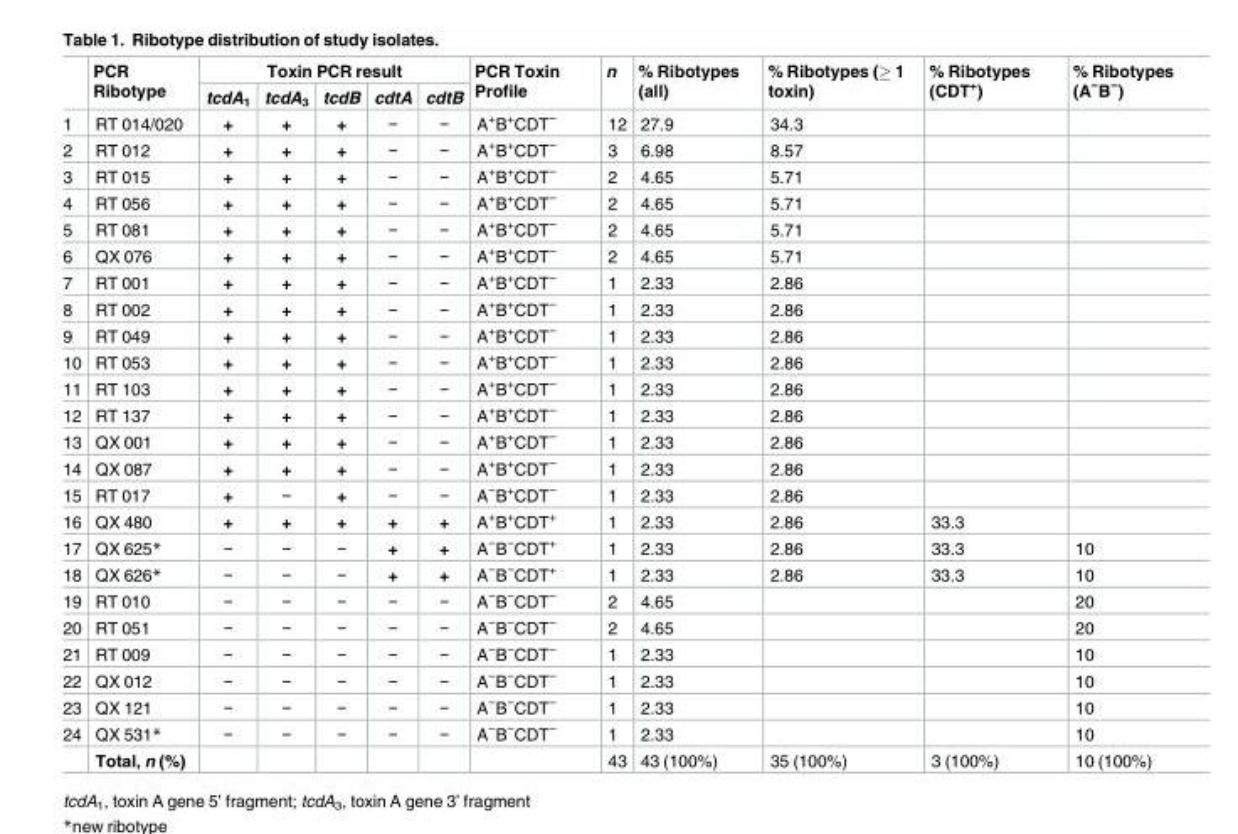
<table><thead><tr><td rowspan="2"></td><td rowspan="2">PCR Ribotype</td><td colspan="5">Toxin PCR result</td><td rowspan="2">PCR Toxin Profile</td><td rowspan="2">n</td><td rowspan="2">% Ribotypes (all)</td><td rowspan="2">% Ribotypes (≥ 1 toxin)</td><td rowspan="2">% Ribotypes (CDT<sup>+</sup>)</td><td rowspan="2">% Ribotypes (A<sup>−</sup>B<sup>−</sup>)</td></tr><tr><td>tcdA<sub>1</sub></td><td>tcdA<sub>3</sub></td><td>tcdB</td><td>cdtA</td><td>cdtB</td></tr></thead><tbody><tr><td>1</td><td>RT 014/020</td><td>+</td><td>+</td><td>+</td><td>−</td><td>−</td><td>A<sup>+</sup>B<sup>+</sup>CDT<sup>−</sup></td><td>12</td><td>27.9</td><td>34.3</td><td></td><td></td></tr><tr><td>2</td><td>RT 012</td><td>+</td><td>+</td><td>+</td><td>−</td><td>−</td><td>A<sup>+</sup>B<sup>+</sup>CDT<sup>−</sup></td><td>3</td><td>6.98</td><td>8.57</td><td></td><td></td></tr><tr><td>3</td><td>RT 015</td><td>+</td><td>+</td><td>+</td><td>−</td><td>−</td><td>A<sup>+</sup>B<sup>+</sup>CDT<sup>−</sup></td><td>2</td><td>4.65</td><td>5.71</td><td></td><td></td></tr><tr><td>4</td><td>RT 056</td><td>+</td><td>+</td><td>+</td><td>−</td><td>−</td><td>A<sup>+</sup>B<sup>+</sup>CDT<sup>−</sup></td><td>2</td><td>4.65</td><td>5.71</td><td></td><td></td></tr><tr><td>5</td><td>RT 081</td><td>+</td><td>+</td><td>+</td><td>−</td><td>−</td><td>A<sup>+</sup>B<sup>+</sup>CDT<sup>−</sup></td><td>2</td><td>4.65</td><td>5.71</td><td></td><td></td></tr><tr><td>6</td><td>QX 076</td><td>+</td><td>+</td><td>+</td><td>−</td><td>−</td><td>A<sup>+</sup>B<sup>+</sup>CDT<sup>−</sup></td><td>2</td><td>4.65</td><td>5.71</td><td></td><td></td></tr><tr><td>7</td><td>RT 001</td><td>+</td><td>+</td><td>+</td><td>−</td><td>−</td><td>A<sup>+</sup>B<sup>+</sup>CDT<sup>−</sup></td><td>1</td><td>2.33</td><td>2.86</td><td></td><td></td></tr><tr><td>8</td><td>RT 002</td><td>+</td><td>+</td><td>+</td><td>−</td><td>−</td><td>A<sup>+</sup>B<sup>+</sup>CDT<sup>−</sup></td><td>1</td><td>2.33</td><td>2.86</td><td></td><td></td></tr><tr><td>9</td><td>RT 049</td><td>+</td><td>+</td><td>+</td><td>−</td><td>−</td><td>A<sup>+</sup>B<sup>+</sup>CDT<sup>−</sup></td><td>1</td><td>2.33</td><td>2.86</td><td></td><td></td></tr><tr><td>10</td><td>RT 053</td><td>+</td><td>+</td><td>+</td><td>−</td><td>−</td><td>A<sup>+</sup>B<sup>+</sup>CDT<sup>−</sup></td><td>1</td><td>2.33</td><td>2.86</td><td></td><td></td></tr><tr><td>11</td><td>RT 103</td><td>+</td><td>+</td><td>+</td><td>−</td><td>−</td><td>A<sup>+</sup>B<sup>+</sup>CDT<sup>−</sup></td><td>1</td><td>2.33</td><td>2.86</td><td></td><td></td></tr><tr><td>12</td><td>RT 137</td><td>+</td><td>+</td><td>+</td><td>−</td><td>−</td><td>A<sup>+</sup>B<sup>+</sup>CDT<sup>−</sup></td><td>1</td><td>2.33</td><td>2.86</td><td></td><td></td></tr><tr><td>13</td><td>QX 001</td><td>+</td><td>+</td><td>+</td><td>−</td><td>−</td><td>A<sup>+</sup>B<sup>+</sup>CDT<sup>−</sup></td><td>1</td><td>2.33</td><td>2.86</td><td></td><td></td></tr><tr><td>14</td><td>QX 087</td><td>+</td><td>+</td><td>+</td><td>−</td><td>−</td><td>A<sup>+</sup>B<sup>+</sup>CDT<sup>−</sup></td><td>1</td><td>2.33</td><td>2.86</td><td></td><td></td></tr><tr><td>15</td><td>RT 017</td><td>+</td><td>−</td><td>+</td><td>−</td><td>−</td><td>A<sup>−</sup>B<sup>+</sup>CDT<sup>−</sup></td><td>1</td><td>2.33</td><td>2.86</td><td></td><td></td></tr><tr><td>16</td><td>QX 480</td><td>+</td><td>+</td><td>+</td><td>+</td><td>+</td><td>A<sup>+</sup>B<sup>+</sup>CDT<sup>+</sup></td><td>1</td><td>2.33</td><td>2.86</td><td>33.3</td><td></td></tr><tr><td>17</td><td>QX 625*</td><td>−</td><td>−</td><td>−</td><td>+</td><td>+</td><td>A<sup>−</sup>B<sup>−</sup>CDT<sup>+</sup></td><td>1</td><td>2.33</td><td>2.86</td><td>33.3</td><td>10</td></tr><tr><td>18</td><td>QX 626*</td><td>−</td><td>−</td><td>−</td><td>+</td><td>+</td><td>A<sup>−</sup>B<sup>−</sup>CDT<sup>+</sup></td><td>1</td><td>2.33</td><td>2.86</td><td>33.3</td><td>10</td></tr><tr><td>19</td><td>RT 010</td><td>−</td><td>−</td><td>−</td><td>−</td><td>−</td><td>A<sup>−</sup>B<sup>−</sup>CDT<sup>−</sup></td><td>2</td><td>4.65</td><td></td><td></td><td>20</td></tr><tr><td>20</td><td>RT 051</td><td>−</td><td>−</td><td>−</td><td>−</td><td>−</td><td>A<sup>−</sup>B<sup>−</sup>CDT<sup>−</sup></td><td>2</td><td>4.65</td><td></td><td></td><td>20</td></tr><tr><td>21</td><td>RT 009</td><td>−</td><td>−</td><td>−</td><td>−</td><td>−</td><td>A<sup>−</sup>B<sup>−</sup>CDT<sup>−</sup></td><td>1</td><td>2.33</td><td></td><td></td><td>10</td></tr><tr><td>22</td><td>QX 012</td><td>−</td><td>−</td><td>−</td><td>−</td><td>−</td><td>A<sup>−</sup>B<sup>−</sup>CDT<sup>−</sup></td><td>1</td><td>2.33</td><td></td><td></td><td>10</td></tr><tr><td>23</td><td>QX 121</td><td>−</td><td>−</td><td>−</td><td>−</td><td>−</td><td>A<sup>−</sup>B<sup>−</sup>CDT<sup>−</sup></td><td>1</td><td>2.33</td><td></td><td></td><td>10</td></tr><tr><td rowspan="2">24</td><td>QX 531*</td><td>−</td><td>−</td><td>−</td><td>−</td><td>−</td><td>A<sup>−</sup>B<sup>−</sup>CDT<sup>−</sup></td><td>1</td><td>2.33</td><td></td><td></td><td>10</td></tr><tr><td>Total, n (%)</td><td></td><td></td><td></td><td></td><td></td><td></td><td>43</td><td>43 (100%)</td><td>35 (100%)</td><td>3 (100%)</td><td>10 (100%)</td></tr></tbody></table>